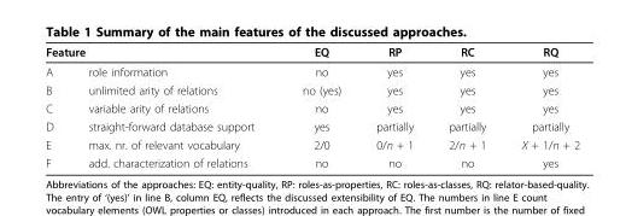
<table><thead><tr><td colspan="2">Feature</td><td rowspan="2">EQ no</td><td rowspan="2">RP yes</td><td rowspan="2">RC yes</td><td rowspan="2">RQ yes</td></tr><tr><td>A</td><td>role information</td></tr></thead><tbody><tr><td>B</td><td>unlimited arity of relations</td><td>no (yes)</td><td>yes</td><td>yes</td><td>yes</td></tr><tr><td>C</td><td>variable arity of relations</td><td>no</td><td>yes</td><td>yes</td><td>yes</td></tr><tr><td>D</td><td>straight-forward database support</td><td>yes</td><td>partially</td><td>partially</td><td>partially</td></tr><tr><td>E</td><td>max. nr. of relevant vocabulary</td><td>2/0</td><td>0/n + 1</td><td>2/n + 1</td><td>X + 1/n + 2</td></tr><tr><td>F</td><td>add. characterization of relations</td><td>no</td><td>no</td><td>no</td><td>yes</td></tr></tbody></table>